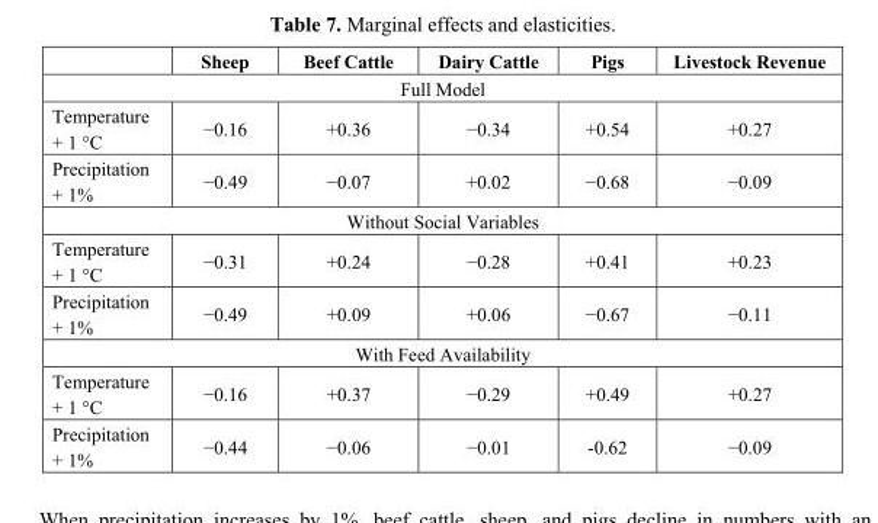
<table><thead><tr><td></td><td>Sheep</td><td>Beef Cattle</td><td>Dairy Cattle</td><td>Pigs</td><td>Livestock Revenue</td></tr></thead><tbody><tr><td colspan="6">Full Model</td></tr><tr><td>Temperature + 1 °C</td><td>−0.16</td><td>+0.36</td><td>−0.34</td><td>+0.54</td><td>+0.27</td></tr><tr><td>Precipitation + 1%</td><td>−0.49</td><td>−0.07</td><td>+0.02</td><td>−0.68</td><td>−0.09</td></tr><tr><td colspan="6">Without Social Variables</td></tr><tr><td>Temperature + 1 °C</td><td>−0.31</td><td>+0.24</td><td>−0.28</td><td>+0.41</td><td>+0.23</td></tr><tr><td>Precipitation + 1%</td><td>−0.49</td><td>+0.09</td><td>+0.06</td><td>−0.67</td><td>−0.11</td></tr><tr><td colspan="6">With Feed Availability</td></tr><tr><td>Temperature + 1 °C</td><td>−0.16</td><td>+0.37</td><td>−0.29</td><td>+0.49</td><td>+0.27</td></tr><tr><td>Precipitation + 1%</td><td>−0.44</td><td>−0.06</td><td>−0.01</td><td>-0.62</td><td>−0.09</td></tr></tbody></table>